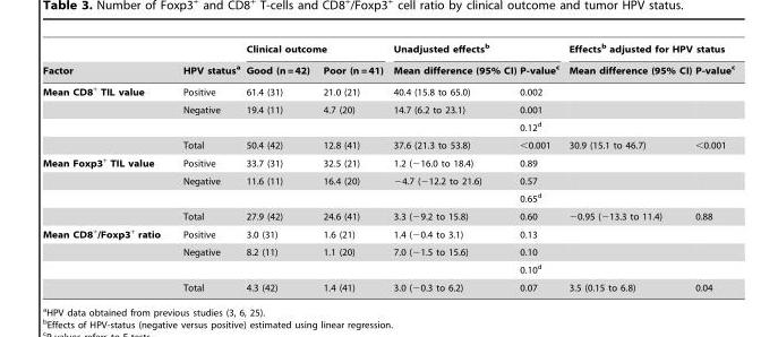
<table><thead><tr><td rowspan="2">Factor</td><td rowspan="2">HPV status<sup>a</sup></td><td colspan="2">Clinical outcome</td><td colspan="2">Unadjusted effects<sup>b</sup></td><td colspan="2">Effects<sup>b</sup> adjusted for HPV status</td></tr><tr><td>Good (n = 42)</td><td>Poor (n = 41)</td><td>Mean difference (95% CI)</td><td>P-value<sup>c</sup></td><td>Mean difference (95% CI)</td><td>P-value<sup>c</sup></td></tr></thead><tbody><tr><td rowspan="4">Mean CD8<sup>+</sup> TIL value</td><td>Positive</td><td>61.4 (31)</td><td>21.0 (21)</td><td>40.4 (15.8 to 65.0)</td><td>0.002</td><td></td><td></td></tr><tr><td>Negative</td><td>19.4 (11)</td><td>4.7 (20)</td><td>14.7 (6.2 to 23.1)</td><td>0.001</td><td></td><td></td></tr><tr><td></td><td></td><td></td><td></td><td>0.12<sup>d</sup></td><td></td><td></td></tr><tr><td>Total</td><td>50.4 (42)</td><td>12.8 (41)</td><td>37.6 (21.3 to 53.8)</td><td>&lt;0.001</td><td>30.9 (15.1 to 46.7)</td><td>&lt;0.001</td></tr><tr><td rowspan="4">Mean Foxp3<sup>+</sup> TIL value</td><td>Positive</td><td>33.7 (31)</td><td>32.5 (21)</td><td>1.2 (−16.0 to 18.4)</td><td>0.89</td><td></td><td></td></tr><tr><td>Negative</td><td>11.6 (11)</td><td>16.4 (20)</td><td>−4.7 (−12.2 to 21.6)</td><td>0.57</td><td></td><td></td></tr><tr><td></td><td></td><td></td><td></td><td>0.65<sup>d</sup></td><td></td><td></td></tr><tr><td>Total</td><td>27.9 (42)</td><td>24.6 (41)</td><td>3.3 (−9.2 to 15.8)</td><td>0.60</td><td>−0.95 (−13.3 to 11.4)</td><td>0.88</td></tr><tr><td rowspan="4">Mean CD8<sup>+</sup>/Foxp3<sup>+</sup> ratio</td><td>Positive</td><td>3.0 (31)</td><td>1.6 (21)</td><td>1.4 (−0.4 to 3.1)</td><td>0.13</td><td></td><td></td></tr><tr><td>Negative</td><td>8.2 (11)</td><td>1.1 (20)</td><td>7.0 (−1.5 to 15.6)</td><td>0.10</td><td></td><td></td></tr><tr><td></td><td></td><td></td><td></td><td>0.10<sup>d</sup></td><td></td><td></td></tr><tr><td>Total</td><td>4.3 (42)</td><td>1.4 (41)</td><td>3.0 (−0.3 to 6.2)</td><td>0.07</td><td>3.5 (0.15 to 6.8)</td><td>0.04</td></tr></tbody></table>